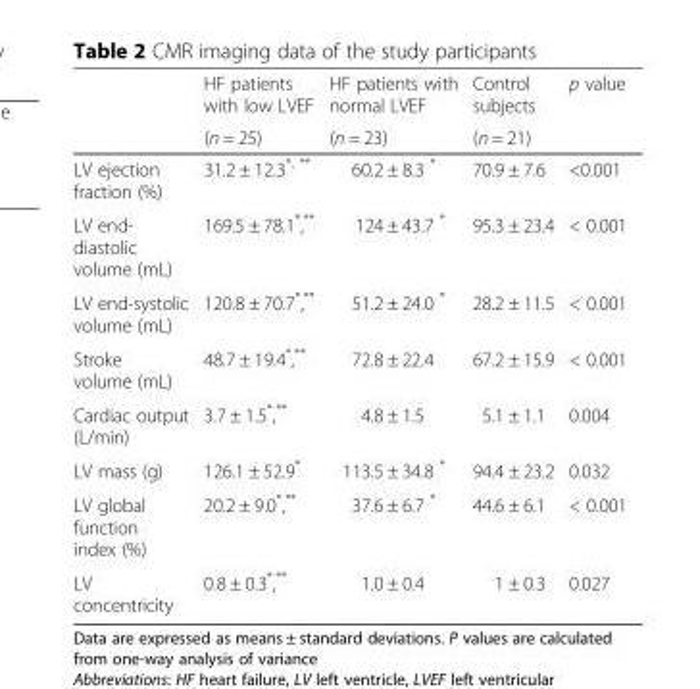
<table><thead><tr><td rowspan="2"></td><td rowspan="2">HF patients with low LVEF (n = 25)</td><td rowspan="2">HF patients with normal LVEF (n = 23)</td><td rowspan="2">Control subjects (n = 21)</td><td rowspan="2">p value</td></tr><tr></tr></thead><tbody><tr><td>LV ejection fraction (%)</td><td>31.2 ± 12.3<sup>*, **</sup></td><td>60.2 ± 8.3 *</td><td>70.9 ± 7.6</td><td>&lt;0.001</td></tr><tr><td>LV end- diastolic volume (mL)</td><td>169.5 ± 78.1*,**</td><td>124 ± 43.7 *</td><td>95.3 ± 23.4</td><td>&lt; 0.001</td></tr><tr><td>LV end-systolic volume (mL)</td><td>120.8 ± 70.7*,**</td><td>51.2 ± 24.0 *</td><td>28.2 ± 11.5</td><td>&lt; 0.001</td></tr><tr><td>Stroke volume (mL)</td><td>48.7 ± 19.4*,**</td><td>72.8 ± 22.4</td><td>67.2 ± 15.9</td><td>&lt; 0.001</td></tr><tr><td>Cardiac output (L/min)</td><td>3.7 ± 1.5*,**</td><td>4.8 ± 1.5</td><td>5.1 ± 1.1</td><td>0.004</td></tr><tr><td>LV mass (g)</td><td>126.1 ± 52.9*</td><td>113.5 ± 34.8 *</td><td>94.4 ± 23.2</td><td>0.032</td></tr><tr><td>LV global function index (%)</td><td>20.2 ± 9.0*,**</td><td>37.6 ± 6.7 *</td><td>44.6 ± 6.1</td><td>&lt; 0.001</td></tr><tr><td>LV concentricity</td><td>0.8 ± 0.3*,**</td><td>1.0 ± 0.4</td><td>1 ± 0.3</td><td>0.027</td></tr></tbody></table>